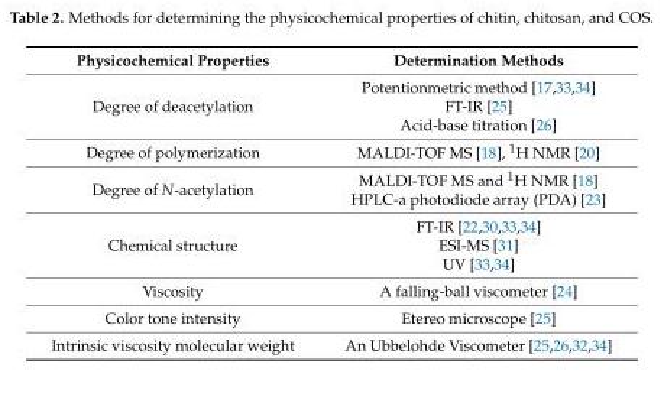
<table><thead><tr><td>Physicochemical Properties</td><td>Determination Methods</td></tr></thead><tbody><tr><td>Degree of deacetylation</td><td>Potentionmetric method [17,33,34] FT-IR [25] Acid-base titration [26]</td></tr><tr><td>Degree of polymerization</td><td>MALDI-TOF MS [18], 1H NMR [20]</td></tr><tr><td>Degree of N-acetylation</td><td>MALDI-TOF MS and 1H NMR [18] HPLC-a photodiode array (PDA) [23]</td></tr><tr><td>Chemical structure</td><td>FT-IR [22,30,33,34] ESI-MS [31] UV [33,34]</td></tr><tr><td>Viscosity</td><td>A falling-ball viscometer [24]</td></tr><tr><td>Color tone intensity</td><td>Etereo microscope [25]</td></tr><tr><td>Intrinsic viscosity molecular weight</td><td>An Ubbelohde Viscometer [25,26,32,34]</td></tr></tbody></table>